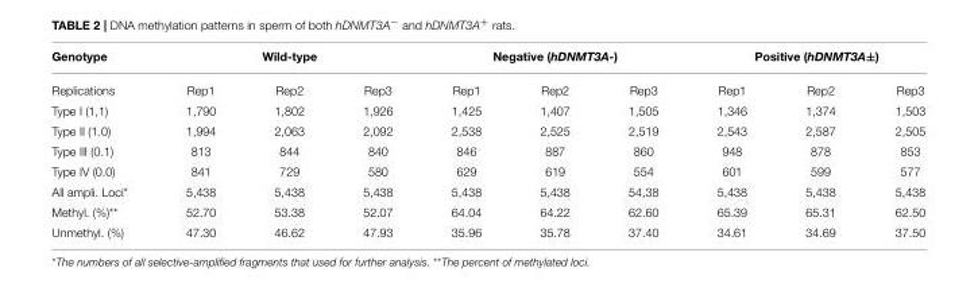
<table><thead><tr><td rowspan="2">Genotype Replications</td><td colspan="3">Wild-type</td><td colspan="3">Negative (hDNMT3A-)</td><td colspan="3">Positive (hDNMT3A±)</td></tr><tr><td>Rep1</td><td>Rep2</td><td>Rep3</td><td>Rep1</td><td>Rep2</td><td>Rep3</td><td>Rep1</td><td>Rep2</td><td>Rep3</td></tr></thead><tbody><tr><td>Type I (1,1)</td><td>1,790</td><td>1,802</td><td>1,926</td><td>1,425</td><td>1,407</td><td>1,505</td><td>1,346</td><td>1,374</td><td>1,503</td></tr><tr><td>Type II (1.0)</td><td>1,994</td><td>2,063</td><td>2,092</td><td>2,538</td><td>2,525</td><td>2,519</td><td>2,543</td><td>2,587</td><td>2,505</td></tr><tr><td>Type III (0.1)</td><td>813</td><td>844</td><td>840</td><td>846</td><td>887</td><td>860</td><td>948</td><td>878</td><td>853</td></tr><tr><td>Type IV (0.0)</td><td>841</td><td>729</td><td>580</td><td>629</td><td>619</td><td>554</td><td>601</td><td>599</td><td>577</td></tr><tr><td>All ampli. Loci*</td><td>5,438</td><td>5,438</td><td>5,438</td><td>5,438</td><td>5,438</td><td>54,38</td><td>5,438</td><td>5,438</td><td>5,438</td></tr><tr><td>Methyl. (%)**</td><td>52.70</td><td>53.38</td><td>52.07</td><td>64.04</td><td>64.22</td><td>62.60</td><td>65.39</td><td>65.31</td><td>62.50</td></tr><tr><td>Unmethyl. (%)</td><td>47.30</td><td>46.62</td><td>47.93</td><td>35.96</td><td>35.78</td><td>37.40</td><td>34.61</td><td>34.69</td><td>37.50</td></tr></tbody></table>